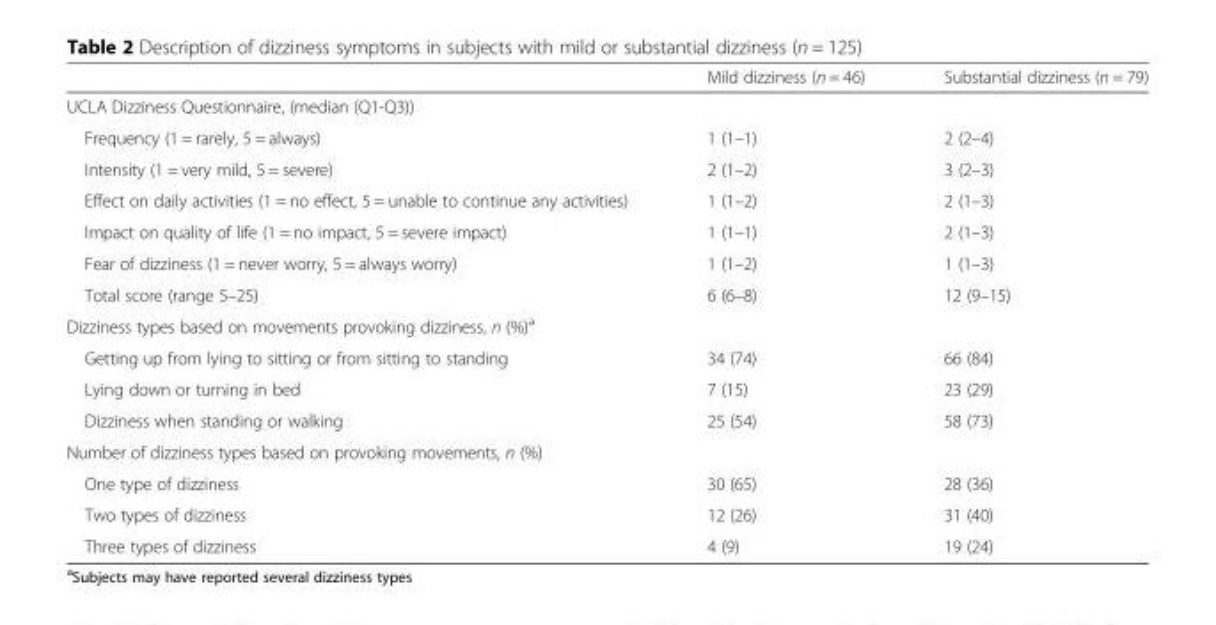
<table><thead><tr><td></td><td>Mild dizziness (n = 46)</td><td>Substantial dizziness (n = 79)</td></tr></thead><tbody><tr><td colspan="3">UCLA Dizziness Questionnaire, (median (Q1-Q3))</td></tr><tr><td>Frequency (1 = rarely, 5 = always)</td><td>1 (1–1)</td><td>2 (2–4)</td></tr><tr><td>Intensity (1 = very mild, 5 = severe)</td><td>2 (1–2)</td><td>3 (2–3)</td></tr><tr><td>Effect on daily activities (1 = no effect, 5 = unable to continue any activities)</td><td>1 (1–2)</td><td>2 (1–3)</td></tr><tr><td>Impact on quality of life (1 = no impact, 5 = severe impact)</td><td>1 (1–1)</td><td>2 (1–3)</td></tr><tr><td>Fear of dizziness (1 = never worry, 5 = always worry)</td><td>1 (1–2)</td><td>1 (1–3)</td></tr><tr><td>Total score (range 5–25)</td><td>6 (6–8)</td><td>12 (9–15)</td></tr><tr><td colspan="3">Dizziness types based on movements provoking dizziness, n (%)<sup>a</sup></td></tr><tr><td>Getting up from lying to sitting or from sitting to standing</td><td>34 (74)</td><td>66 (84)</td></tr><tr><td>Lying down or turning in bed</td><td>7 (15)</td><td>23 (29)</td></tr><tr><td>Dizziness when standing or walking</td><td>25 (54)</td><td>58 (73)</td></tr><tr><td colspan="3">Number of dizziness types based on provoking movements, n (%)</td></tr><tr><td>One type of dizziness</td><td>30 (65)</td><td>28 (36)</td></tr><tr><td>Two types of dizziness</td><td>12 (26)</td><td>31 (40)</td></tr><tr><td>Three types of dizziness</td><td>4 (9)</td><td>19 (24)</td></tr></tbody></table>